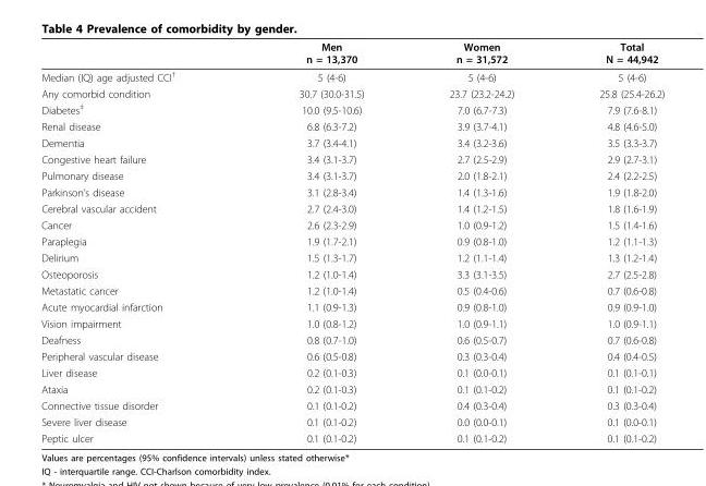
<table><thead><tr><td></td><td>Men n = 13,370</td><td>Women n = 31,572</td><td>Total N = 44,942</td></tr></thead><tbody><tr><td>Median (IQ) age adjusted CCI<sup>†</sup></td><td>5 (4-6)</td><td>5 (4-6)</td><td>5 (4-6)</td></tr><tr><td>Any comorbid condition</td><td>30.7 (30.0-31.5)</td><td>23.7 (23.2-24.2)</td><td>25.8 (25.4-26.2)</td></tr><tr><td>Diabetes<sup>‡</sup></td><td>10.0 (9.5-10.6)</td><td>7.0 (6.7-7.3)</td><td>7.9 (7.6-8.1)</td></tr><tr><td>Renal disease</td><td>6.8 (6.3-7.2)</td><td>3.9 (3.7-4.1)</td><td>4.8 (4.6-5.0)</td></tr><tr><td>Dementia</td><td>3.7 (3.4-4.1)</td><td>3.4 (3.2-3.6)</td><td>3.5 (3.3-3.7)</td></tr><tr><td>Congestive heart failure</td><td>3.4 (3.1-3.7)</td><td>2.7 (2.5-2.9)</td><td>2.9 (2.7-3.1)</td></tr><tr><td>Pulmonary disease</td><td>3.4 (3.1-3.7)</td><td>2.0 (1.8-2.1)</td><td>2.4 (2.2-2.5)</td></tr><tr><td>Parkinson’s disease</td><td>3.1 (2.8-3.4)</td><td>1.4 (1.3-1.6)</td><td>1.9 (1.8-2.0)</td></tr><tr><td>Cerebral vascular accident</td><td>2.7 (2.4-3.0)</td><td>1.4 (1.2-1.5)</td><td>1.8 (1.6-1.9)</td></tr><tr><td>Cancer</td><td>2.6 (2.3-2.9)</td><td>1.0 (0.9-1.2)</td><td>1.5 (1.4-1.6)</td></tr><tr><td>Paraplegia</td><td>1.9 (1.7-2.1)</td><td>0.9 (0.8-1.0)</td><td>1.2 (1.1-1.3)</td></tr><tr><td>Delirium</td><td>1.5 (1.3-1.7)</td><td>1.2 (1.1-1.4)</td><td>1.3 (1.2-1.4)</td></tr><tr><td>Osteoporosis</td><td>1.2 (1.0-1.4)</td><td>3.3 (3.1-3.5)</td><td>2.7 (2.5-2.8)</td></tr><tr><td>Metastatic cancer</td><td>1.2 (1.0-1.4)</td><td>0.5 (0.4-0.6)</td><td>0.7 (0.6-0.8)</td></tr><tr><td>Acute myocardial infarction</td><td>1.1 (0.9-1.3)</td><td>0.9 (0.8-1.0)</td><td>0.9 (0.9-1.0)</td></tr><tr><td>Vision impairment</td><td>1.0 (0.8-1.2)</td><td>1.0 (0.9-1.1)</td><td>1.0 (0.9-1.1)</td></tr><tr><td>Deafness</td><td>0.8 (0.7-1.0)</td><td>0.6 (0.5-0.7)</td><td>0.7 (0.6-0.8)</td></tr><tr><td>Peripheral vascular disease</td><td>0.6 (0.5-0.8)</td><td>0.3 (0.3-0.4)</td><td>0.4 (0.4-0.5)</td></tr><tr><td>Liver disease</td><td>0.2 (0.1-0.3)</td><td>0.1 (0.0-0.1)</td><td>0.1 (0.1-0.1)</td></tr><tr><td>Ataxia</td><td>0.2 (0.1-0.3)</td><td>0.1 (0.1-0.2)</td><td>0.1 (0.1-0.2)</td></tr><tr><td>Connective tissue disorder</td><td>0.1 (0.1-0.2)</td><td>0.4 (0.3-0.4)</td><td>0.3 (0.3-0.4)</td></tr><tr><td>Severe liver disease</td><td>0.1 (0.1-0.2)</td><td>0.0 (0.0-0.1)</td><td>0.1 (0.0-0.1)</td></tr><tr><td>Peptic ulcer</td><td>0.1 (0.1-0.2)</td><td>0.1 (0.1-0.2)</td><td>0.1 (0.1-0.2)</td></tr></tbody></table>